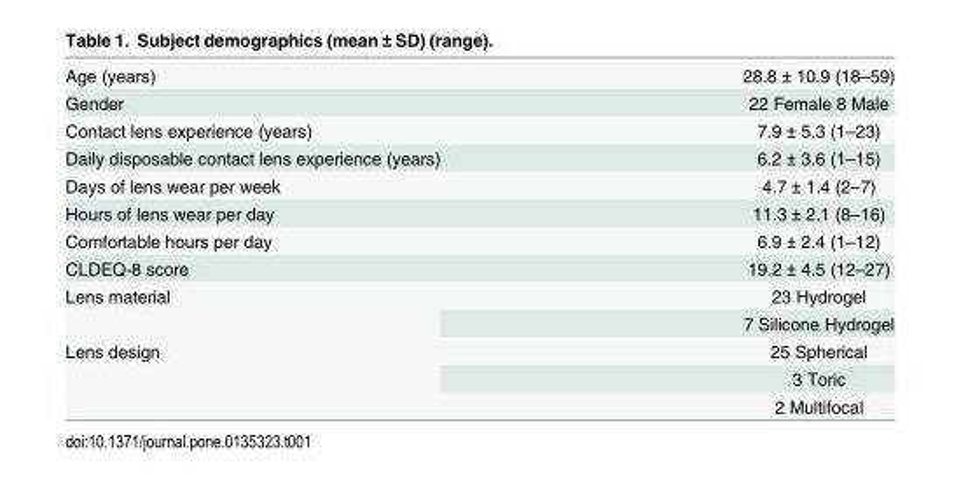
<table><tbody><tr><td>Age (years)</td><td>28.8 ± 10.9 (18–59)</td></tr><tr><td>Gender</td><td>22 Female 8 Male</td></tr><tr><td>Contact lens experience (years)</td><td>7.9 ± 5.3 (1–23)</td></tr><tr><td>Daily disposable contact lens experience (years)</td><td>6.2 ± 3.6 (1–15)</td></tr><tr><td>Days of lens wear per week</td><td>4.7 ± 1.4 (2–7)</td></tr><tr><td>Hours of lens wear per day</td><td>11.3 ± 2.1 (8–16)</td></tr><tr><td>Comfortable hours per day</td><td>6.9 ± 2.4 (1–12)</td></tr><tr><td>CLDEQ-8 score</td><td>19.2 ± 4.5 (12–27)</td></tr><tr><td rowspan="2">Lens material</td><td>23 Hydrogel</td></tr><tr><td>7 Silicone Hydrogel</td></tr><tr><td rowspan="3">Lens design</td><td>25 Spherical</td></tr><tr><td>3 Toric</td></tr><tr><td>2 Multifocal</td></tr></tbody></table>